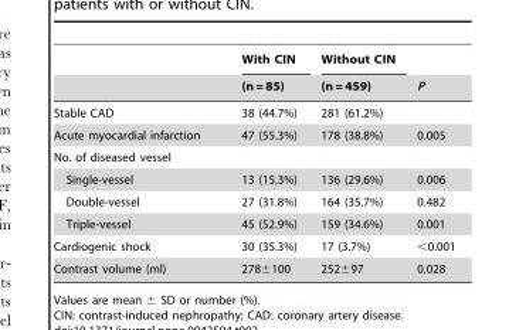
<table><thead><tr><td rowspan="2"></td><td rowspan="2">With CIN (n = 85)</td><td rowspan="2">Without CIN (n = 459)</td><td rowspan="2">P</td></tr><tr></tr></thead><tbody><tr><td>Stable CAD</td><td>38 (44.7%)</td><td>281 (61.2%)</td><td></td></tr><tr><td>Acute myocardial infarction</td><td>47 (55.3%)</td><td>178 (38.8%)</td><td>0.005</td></tr><tr><td colspan="4">No. of diseased vessel</td></tr><tr><td>Single-vessel</td><td>13 (15.3%)</td><td>136 (29.6%)</td><td>0.006</td></tr><tr><td>Double-vessel</td><td>27 (31.8%)</td><td>164 (35.7%)</td><td>0.482</td></tr><tr><td>Triple-vessel</td><td>45 (52.9%)</td><td>159 (34.6%)</td><td>0.001</td></tr><tr><td>Cardiogenic shock</td><td>30 (35.3%)</td><td>17 (3.7%)</td><td>&lt;0.001</td></tr><tr><td>Contrast volume (ml)</td><td>278±100</td><td>252±97</td><td>0.028</td></tr></tbody></table>